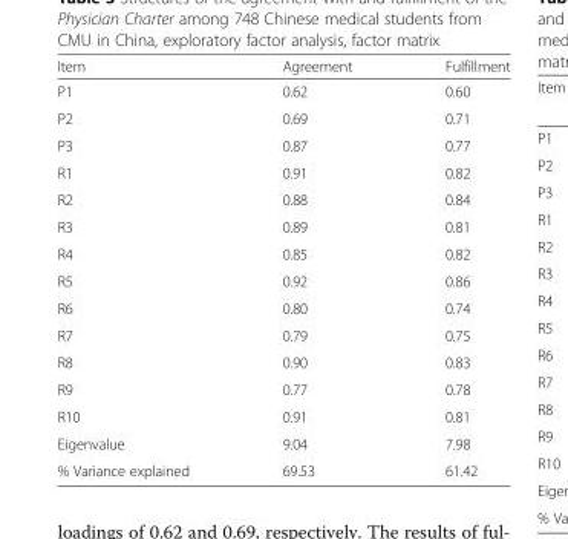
<table><thead><tr><td>Item</td><td>Agreement</td><td>Fulfillment</td></tr></thead><tbody><tr><td>P1</td><td>0.62</td><td>0.60</td></tr><tr><td>P2</td><td>0.69</td><td>0.71</td></tr><tr><td>P3</td><td>0.87</td><td>0.77</td></tr><tr><td>R1</td><td>0.91</td><td>0.82</td></tr><tr><td>R2</td><td>0.88</td><td>0.84</td></tr><tr><td>R3</td><td>0.89</td><td>0.81</td></tr><tr><td>R4</td><td>0.85</td><td>0.82</td></tr><tr><td>R5</td><td>0.92</td><td>0.86</td></tr><tr><td>R6</td><td>0.80</td><td>0.74</td></tr><tr><td>R7</td><td>0.79</td><td>0.75</td></tr><tr><td>R8</td><td>0.90</td><td>0.83</td></tr><tr><td>R9</td><td>0.77</td><td>0.78</td></tr><tr><td>R10</td><td>0.91</td><td>0.81</td></tr><tr><td>Eigenvalue</td><td>9.04</td><td>7.98</td></tr><tr><td>% Variance explained</td><td>69.53</td><td>61.42</td></tr></tbody></table>